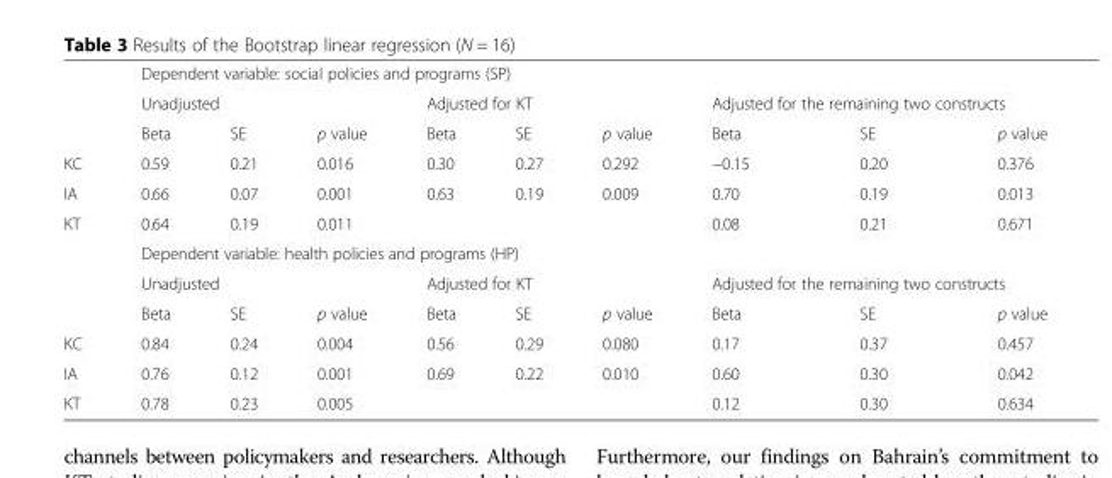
<table><thead><tr><td rowspan="3"></td><td colspan="9">Dependent variable: social policies and programs (SP)</td></tr><tr><td colspan="3">Unadjusted</td><td colspan="3">Adjusted for KT</td><td colspan="3">Adjusted for the remaining two constructs</td></tr><tr><td>Beta</td><td>SE</td><td>p value</td><td>Beta</td><td>SE</td><td>p value</td><td>Beta</td><td>SE</td><td>p value</td></tr></thead><tbody><tr><td>KC</td><td>0.59</td><td>0.21</td><td>0.016</td><td>0.30</td><td>0.27</td><td>0.292</td><td>−0.15</td><td>0.20</td><td>0.376</td></tr><tr><td>IA</td><td>0.66</td><td>0.07</td><td>0.001</td><td>0.63</td><td>0.19</td><td>0.009</td><td>0.70</td><td>0.19</td><td>0.013</td></tr><tr><td rowspan="4">KT</td><td>0.64</td><td>0.19</td><td>0.011</td><td></td><td></td><td></td><td>0.08</td><td>0.21</td><td>0.671</td></tr><tr><td colspan="9">Dependent variable: health policies and programs (HP)</td></tr><tr><td colspan="3">Unadjusted</td><td colspan="3">Adjusted for KT</td><td colspan="3">Adjusted for the remaining two constructs</td></tr><tr><td>Beta</td><td>SE</td><td>p value</td><td>Beta</td><td>SE</td><td>p value</td><td>Beta</td><td>SE</td><td>p value</td></tr><tr><td>KC</td><td>0.84</td><td>0.24</td><td>0.004</td><td>0.56</td><td>0.29</td><td>0.080</td><td>0.17</td><td>0.37</td><td>0.457</td></tr><tr><td>IA</td><td>0.76</td><td>0.12</td><td>0.001</td><td>0.69</td><td>0.22</td><td>0.010</td><td>0.60</td><td>0.30</td><td>0.042</td></tr><tr><td>KT</td><td>0.78</td><td>0.23</td><td>0.005</td><td></td><td></td><td></td><td>0.12</td><td>0.30</td><td>0.634</td></tr></tbody></table>